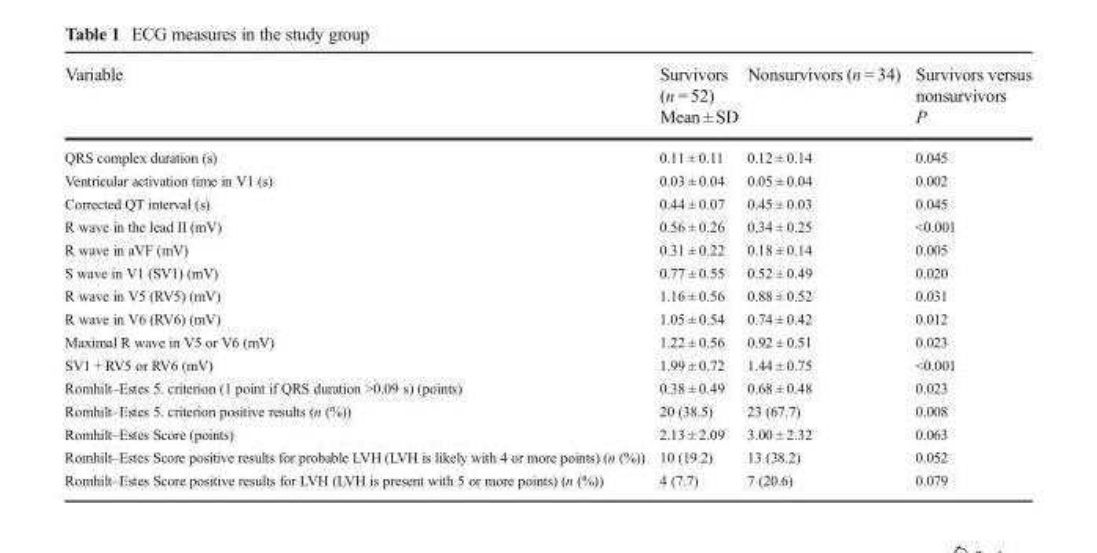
<table><thead><tr><td rowspan="2">Variable</td><td>Survivors (n = 52)</td><td>Nonsurvivors (n = 34)</td><td rowspan="2">Survivors versus nonsurvivors P</td></tr><tr><td colspan="2">Mean ± SD</td></tr></thead><tbody><tr><td>QRS complex duration (s)</td><td>0.11 ± 0.11</td><td>0.12 ± 0.14</td><td>0.045</td></tr><tr><td>Ventricular activation time in V1 (s)</td><td>0.03 ± 0.04</td><td>0.05 ± 0.04</td><td>0.002</td></tr><tr><td>Corrected QT interval (s)</td><td>0.44 ± 0.07</td><td>0.45 ± 0.03</td><td>0.045</td></tr><tr><td>R wave in the lead II (mV)</td><td>0.56 ± 0.26</td><td>0.34 ± 0.25</td><td>&lt;0.001</td></tr><tr><td>R wave in aVF (mV)</td><td>0.31 ± 0.22</td><td>0.18 ± 0.14</td><td>0.005</td></tr><tr><td>S wave in V1 (SV1) (mV)</td><td>0.77 ± 0.55</td><td>0.52 ± 0.49</td><td>0.020</td></tr><tr><td>R wave in V5 (RV5) (mV)</td><td>1.16 ± 0.56</td><td>0.88 ± 0.52</td><td>0.031</td></tr><tr><td>R wave in V6 (RV6) (mV)</td><td>1.05 ± 0.54</td><td>0.74 ± 0.42</td><td>0.012</td></tr><tr><td>Maximal R wave in V5 or V6 (mV)</td><td>1.22 ± 0.56</td><td>0.92 ± 0.51</td><td>0.023</td></tr><tr><td>SV1 + RV5 or RV6 (mV)</td><td>1.99 ± 0.72</td><td>1.44 ± 0.75</td><td>&lt;0.001</td></tr><tr><td>Romhilt–Estes 5. criterion (1 point if QRS duration &gt;0.09 s) (points)</td><td>0.38 ± 0.49</td><td>0.68 ± 0.48</td><td>0.023</td></tr><tr><td>Romhilt–Estes 5. criterion positive results (n (%))</td><td>20 (38.5)</td><td>23 (67.7)</td><td>0.008</td></tr><tr><td>Romhilt–Estes Score (points)</td><td>2.13 ± 2.09</td><td>3.00 ± 2.32</td><td>0.063</td></tr><tr><td>Romhilt–Estes Score positive results for probable LVH (LVH is likely with 4 or more points) (n (%))</td><td>10 (19.2)</td><td>13 (38.2)</td><td>0.052</td></tr><tr><td>Romhilt–Estes Score positive results for LVH (LVH is present with 5 or more points) (n (%))</td><td>4 (7.7)</td><td>7 (20.6)</td><td>0.079</td></tr></tbody></table>